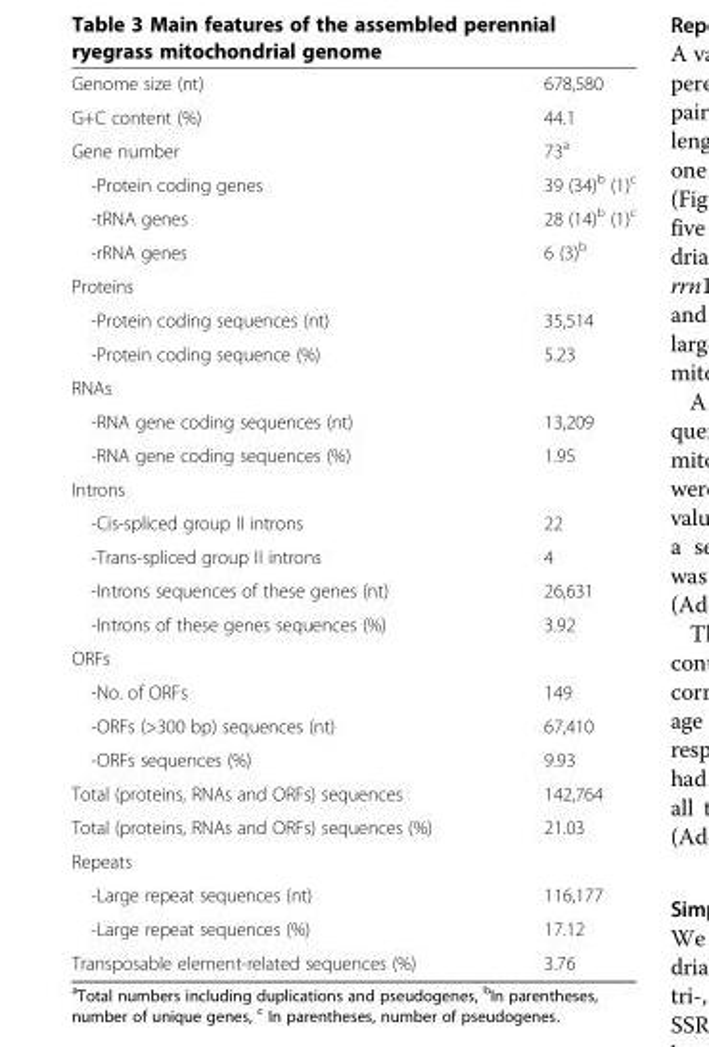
<table><tbody><tr><td>Genome size (nt)</td><td>678,580</td></tr><tr><td>G+C content (%)</td><td>44.1</td></tr><tr><td>Gene number</td><td>73<sup>a</sup></td></tr><tr><td>-Protein coding genes</td><td>39 (34)<sup>b</sup> (1)<sup>c</sup></td></tr><tr><td>-tRNA genes</td><td>28 (14)<sup>b</sup> (1)<sup>c</sup></td></tr><tr><td>-rRNA genes</td><td>6 (3)<sup>b</sup></td></tr><tr><td colspan="2">Proteins</td></tr><tr><td>-Protein coding sequences (nt)</td><td>35,514</td></tr><tr><td>-Protein coding sequence (%)</td><td>5.23</td></tr><tr><td colspan="2">RNAs</td></tr><tr><td>-RNA gene coding sequences (nt)</td><td>13,209</td></tr><tr><td>-RNA gene coding sequences (%)</td><td>1.95</td></tr><tr><td colspan="2">Introns</td></tr><tr><td>-Cis-spliced group II introns</td><td>22</td></tr><tr><td>-Trans-spliced group II introns</td><td>4</td></tr><tr><td>-Introns sequences of these genes (nt)</td><td>26,631</td></tr><tr><td>-Introns of these genes sequences (%)</td><td>3.92</td></tr><tr><td colspan="2">ORFs</td></tr><tr><td>-No. of ORFs</td><td>149</td></tr><tr><td>-ORFs (&gt;300 bp) sequences (nt)</td><td>67,410</td></tr><tr><td>-ORFs sequences (%)</td><td>9.93</td></tr><tr><td>Total (proteins, RNAs and ORFs) sequences</td><td>142,764</td></tr><tr><td>Total (proteins, RNAs and ORFs) sequences (%)</td><td>21.03</td></tr><tr><td colspan="2">Repeats</td></tr><tr><td>-Large repeat sequences (nt)</td><td>116,177</td></tr><tr><td>-Large repeat sequences (%)</td><td>17.12</td></tr><tr><td>Transposable element-related sequences (%)</td><td>3.76</td></tr></tbody></table>